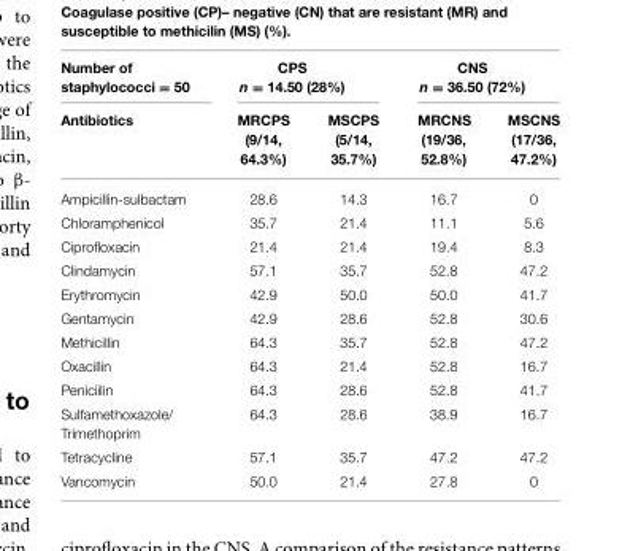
<table><thead><tr><td rowspan="2">Number of staphylococci = 50 Antibiotics</td><td colspan="2">CPS n = 14.50 (28%)</td><td colspan="2">CNS n = 36.50 (72%)</td></tr><tr><td>MRCPS (9/14, 64.3%)</td><td>MSCPS (5/14, 35.7%)</td><td>MRCNS (19/36, 52.8%)</td><td>MSCNS (17/36, 47.2%)</td></tr></thead><tbody><tr><td>Ampicillin-sulbactam</td><td>28.6</td><td>14.3</td><td>16.7</td><td>0</td></tr><tr><td>Chloramphenicol</td><td>35.7</td><td>21.4</td><td>11.1</td><td>5.6</td></tr><tr><td>Ciprofloxacin</td><td>21.4</td><td>21.4</td><td>19.4</td><td>8.3</td></tr><tr><td>Clindamycin</td><td>57.1</td><td>35.7</td><td>52.8</td><td>47.2</td></tr><tr><td>Erythromycin</td><td>42.9</td><td>50.0</td><td>50.0</td><td>41.7</td></tr><tr><td>Gentamycin</td><td>42.9</td><td>28.6</td><td>52.8</td><td>30.6</td></tr><tr><td>Methicillin</td><td>64.3</td><td>35.7</td><td>52.8</td><td>47.2</td></tr><tr><td>Oxacillin</td><td>64.3</td><td>21.4</td><td>52.8</td><td>16.7</td></tr><tr><td>Peniciilin</td><td>64.3</td><td>28.6</td><td>52.8</td><td>41.7</td></tr><tr><td>Sulfamethoxazole/ Trimethoprim</td><td>64.3</td><td>28.6</td><td>38.9</td><td>16.7</td></tr><tr><td>Tetracycline</td><td>57.1</td><td>35.7</td><td>47.2</td><td>47.2</td></tr><tr><td>Vancomycin</td><td>50.0</td><td>21.4</td><td>27.8</td><td>0</td></tr></tbody></table>